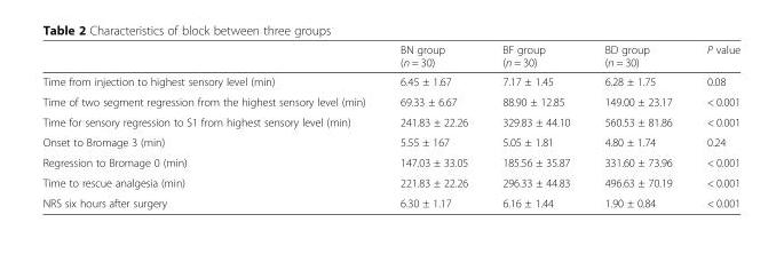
<table><thead><tr><td></td><td>BN group (n = 30)</td><td>BF group (n = 30)</td><td>BD group (n = 30)</td><td>P value</td></tr></thead><tbody><tr><td>Time from injection to highest sensory level (min)</td><td>6.45 ± 1.67</td><td>7.17 ± 1.45</td><td>6.28 ± 1.75</td><td>0.08</td></tr><tr><td>Time of two segment regression from the highest sensory level (min)</td><td>69.33 ± 6.67</td><td>88.90 ± 12.85</td><td>149.00 ± 23.17</td><td>&lt; 0.001</td></tr><tr><td>Time for sensory regression to S1 from highest sensory level (min)</td><td>241.83 ± 22.26</td><td>329.83 ± 44.10</td><td>560.53 ± 81.86</td><td>&lt; 0.001</td></tr><tr><td>Onset to Bromage 3 (min)</td><td>5.55 ± 167</td><td>5.05 ± 1.81</td><td>4.80 ± 1.74</td><td>0.24</td></tr><tr><td>Regression to Bromage 0 (min)</td><td>147.03 ± 33.05</td><td>185.56 ± 35.87</td><td>331.60 ± 73.96</td><td>&lt; 0.001</td></tr><tr><td>Time to rescue analgesia (min)</td><td>221.83 ± 22.26</td><td>296.33 ± 44.83</td><td>496.63 ± 70.19</td><td>&lt; 0.001</td></tr><tr><td>NRS six hours after surgery</td><td>6.30 ± 1.17</td><td>6.16 ± 1.44</td><td>1.90 ± 0.84</td><td>&lt; 0.001</td></tr></tbody></table>